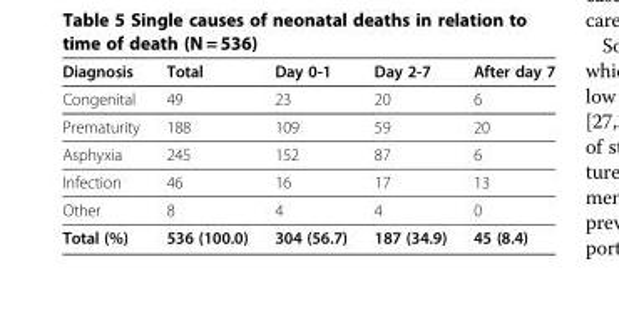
<table><thead><tr><td>Diagnosis</td><td>Total</td><td>Day 0-1</td><td>Day 2-7</td><td>After day 7</td></tr></thead><tbody><tr><td>Congenital</td><td>49</td><td>23</td><td>20</td><td>6</td></tr><tr><td>Prematurity</td><td>188</td><td>109</td><td>59</td><td>20</td></tr><tr><td>Asphyxia</td><td>245</td><td>152</td><td>87</td><td>6</td></tr><tr><td>Infection</td><td>46</td><td>16</td><td>17</td><td>13</td></tr><tr><td>Other</td><td>8</td><td>4</td><td>4</td><td>0</td></tr><tr><td>Total (%)</td><td>536 (100.0)</td><td>304 (56.7)</td><td>187 (34.9)</td><td>45 (8.4)</td></tr></tbody></table>